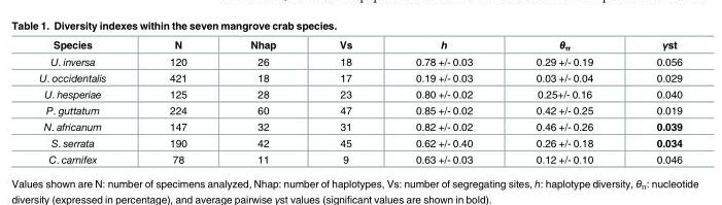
<table><thead><tr><td>Species</td><td>N</td><td>Nhap</td><td>Vs</td><td>h</td><td>θ<sub>π</sub></td><td>γst</td></tr></thead><tbody><tr><td>U. inversa</td><td>120</td><td>26</td><td>18</td><td>0.78 +/- 0.03</td><td>0.29 +/- 0.19</td><td>0.056</td></tr><tr><td>U. occidentalis</td><td>421</td><td>18</td><td>17</td><td>0.19 +/- 0.03</td><td>0.03 +/- 0.04</td><td>0.029</td></tr><tr><td>U. hesperiae</td><td>125</td><td>28</td><td>23</td><td>0.80 +/- 0.02</td><td>0.25+/- 0.16</td><td>0.040</td></tr><tr><td>P. guttatum</td><td>224</td><td>60</td><td>47</td><td>0.85 +/- 0.02</td><td>0.42 +/- 0.25</td><td>0.019</td></tr><tr><td>N. africanum</td><td>147</td><td>32</td><td>31</td><td>0.82 +/- 0.02</td><td>0.46 +/- 0.26</td><td>0.039</td></tr><tr><td>S. serrata</td><td>190</td><td>42</td><td>45</td><td>0.62 +/- 0.40</td><td>0.26 +/- 0.18</td><td>0.034</td></tr><tr><td>C. carnifex</td><td>78</td><td>11</td><td>9</td><td>0.63 +/- 0.03</td><td>0.12 +/- 0.10</td><td>0.046</td></tr></tbody></table>